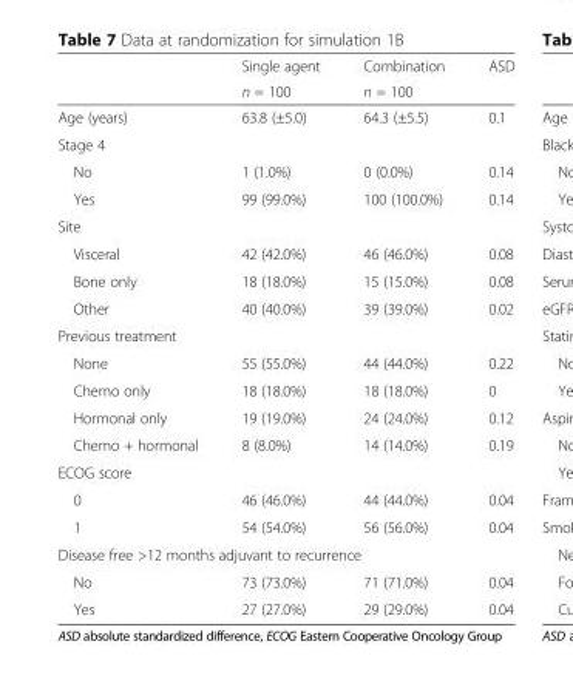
<table><thead><tr><td rowspan="2"></td><td rowspan="2">Single agent n = 100</td><td rowspan="2">Combination n = 100</td><td rowspan="2">ASD</td></tr><tr></tr></thead><tbody><tr><td>Age (years)</td><td>63.8 (±5.0)</td><td>64.3 (±5.5)</td><td>0.1</td></tr><tr><td colspan="4">Stage 4</td></tr><tr><td>No</td><td>1 (1.0%)</td><td>0 (0.0%)</td><td>0.14</td></tr><tr><td>Yes</td><td>99 (99.0%)</td><td>100 (100.0%)</td><td>0.14</td></tr><tr><td colspan="4">Site</td></tr><tr><td>Visceral</td><td>42 (42.0%)</td><td>46 (46.0%)</td><td>0.08</td></tr><tr><td>Bone only</td><td>18 (18.0%)</td><td>15 (15.0%)</td><td>0.08</td></tr><tr><td>Other</td><td>40 (40.0%)</td><td>39 (39.0%)</td><td>0.02</td></tr><tr><td colspan="4">Previous treatment</td></tr><tr><td>None</td><td>55 (55.0%)</td><td>44 (44.0%)</td><td>0.22</td></tr><tr><td>Chemo only</td><td>18 (18.0%)</td><td>18 (18.0%)</td><td>0</td></tr><tr><td>Hormonal only</td><td>19 (19.0%)</td><td>24 (24.0%)</td><td>0.12</td></tr><tr><td>Chemo + hormonal</td><td>8 (8.0%)</td><td>14 (14.0%)</td><td>0.19</td></tr><tr><td colspan="4">ECOG score</td></tr><tr><td>0</td><td>46 (46.0%)</td><td>44 (44.0%)</td><td>0.04</td></tr><tr><td>1</td><td>54 (54.0%)</td><td>56 (56.0%)</td><td>0.04</td></tr><tr><td colspan="4">Disease free &gt;12 months adjuvant to recurrence</td></tr><tr><td>No</td><td>73 (73.0%)</td><td>71 (71.0%)</td><td>0.04</td></tr><tr><td>Yes</td><td>27 (27.0%)</td><td>29 (29.0%)</td><td>0.04</td></tr></tbody></table>